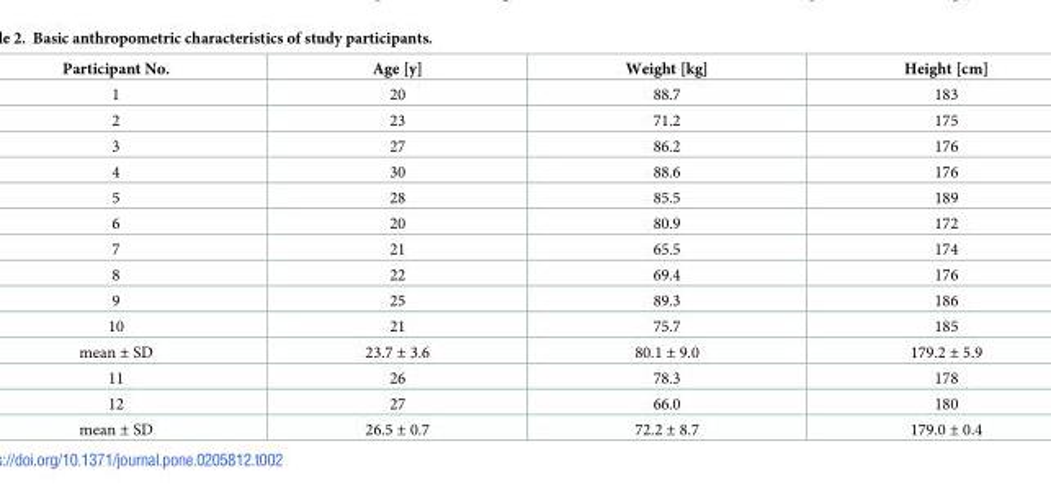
<table><thead><tr><td>Participant No.</td><td>Age [y]</td><td>Weight [kg]</td><td>Height [cm]</td></tr></thead><tbody><tr><td>1</td><td>20</td><td>88.7</td><td>183</td></tr><tr><td>2</td><td>23</td><td>71.2</td><td>175</td></tr><tr><td>3</td><td>27</td><td>86.2</td><td>176</td></tr><tr><td>4</td><td>30</td><td>88.6</td><td>176</td></tr><tr><td>5</td><td>28</td><td>85.5</td><td>189</td></tr><tr><td>6</td><td>20</td><td>80.9</td><td>172</td></tr><tr><td>7</td><td>21</td><td>65.5</td><td>174</td></tr><tr><td>8</td><td>22</td><td>69.4</td><td>176</td></tr><tr><td>9</td><td>25</td><td>89.3</td><td>186</td></tr><tr><td>10</td><td>21</td><td>75.7</td><td>185</td></tr><tr><td>mean ± SD</td><td>23.7 ± 3.6</td><td>80.1 ± 9.0</td><td>179.2 ± 5.9</td></tr><tr><td>11</td><td>26</td><td>78.3</td><td>178</td></tr><tr><td>12</td><td>27</td><td>66.0</td><td>180</td></tr><tr><td>mean ± SD</td><td>26.5 ± 0.7</td><td>72.2 ± 8.7</td><td>179.0 ± 0.4</td></tr></tbody></table>